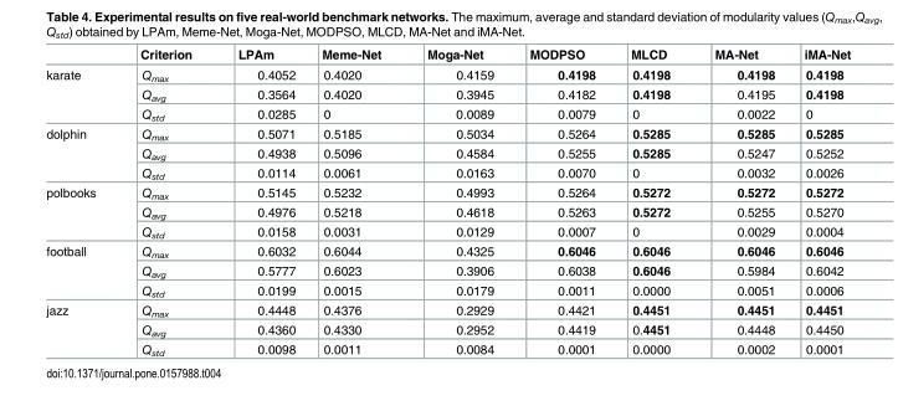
<table><thead><tr><td></td><td>Criterion</td><td>LPAm</td><td>Meme-Net</td><td>Moga-Net</td><td>MODPSO</td><td>MLCD</td><td>MA-Net</td><td>iMA-Net</td></tr></thead><tbody><tr><td rowspan="3">karate</td><td>Q<sub>max</sub></td><td>0.4052</td><td>0.4020</td><td>0.4159</td><td>0.4198</td><td>0.4198</td><td>0.4198</td><td>0.4198</td></tr><tr><td>Q<sub>avg</sub></td><td>0.3564</td><td>0.4020</td><td>0.3945</td><td>0.4182</td><td>0.4198</td><td>0.4195</td><td>0.4198</td></tr><tr><td>Q<sub>std</sub></td><td>0.0285</td><td>0</td><td>0.0089</td><td>0.0079</td><td>0</td><td>0.0022</td><td>0</td></tr><tr><td rowspan="3">dolphin</td><td>Q<sub>max</sub></td><td>0.5071</td><td>0.5185</td><td>0.5034</td><td>0.5264</td><td>0.5285</td><td>0.5285</td><td>0.5285</td></tr><tr><td>Q<sub>avg</sub></td><td>0.4938</td><td>0.5096</td><td>0.4584</td><td>0.5255</td><td>0.5285</td><td>0.5247</td><td>0.5252</td></tr><tr><td>Q<sub>std</sub></td><td>0.0114</td><td>0.0061</td><td>0.0163</td><td>0.0070</td><td>0</td><td>0.0032</td><td>0.0026</td></tr><tr><td rowspan="3">polbooks</td><td>Q<sub>max</sub></td><td>0.5145</td><td>0.5232</td><td>0.4993</td><td>0.5264</td><td>0.5272</td><td>0.5272</td><td>0.5272</td></tr><tr><td>Q<sub>avg</sub></td><td>0.4976</td><td>0.5218</td><td>0.4618</td><td>0.5263</td><td>0.5272</td><td>0.5255</td><td>0.5270</td></tr><tr><td>Q<sub>std</sub></td><td>0.0158</td><td>0.0031</td><td>0.0129</td><td>0.0007</td><td>0</td><td>0.0029</td><td>0.0004</td></tr><tr><td rowspan="3">football</td><td>Q<sub>max</sub></td><td>0.6032</td><td>0.6044</td><td>0.4325</td><td>0.6046</td><td>0.6046</td><td>0.6046</td><td>0.6046</td></tr><tr><td>Q<sub>avg</sub></td><td>0.5777</td><td>0.6023</td><td>0.3906</td><td>0.6038</td><td>0.6046</td><td>0.5984</td><td>0.6042</td></tr><tr><td>Q<sub>std</sub></td><td>0.0199</td><td>0.0015</td><td>0.0179</td><td>0.0011</td><td>0.0000</td><td>0.0051</td><td>0.0006</td></tr><tr><td rowspan="3">jazz</td><td>Q<sub>max</sub></td><td>0.4448</td><td>0.4376</td><td>0.2929</td><td>0.4421</td><td>0.4451</td><td>0.4451</td><td>0.4451</td></tr><tr><td>Q<sub>avg</sub></td><td>0.4360</td><td>0.4330</td><td>0.2952</td><td>0.4419</td><td>0.4451</td><td>0.4448</td><td>0.4450</td></tr><tr><td>Q<sub>std</sub></td><td>0.0098</td><td>0.0011</td><td>0.0084</td><td>0.0001</td><td>0.0000</td><td>0.0002</td><td>0.0001</td></tr></tbody></table>